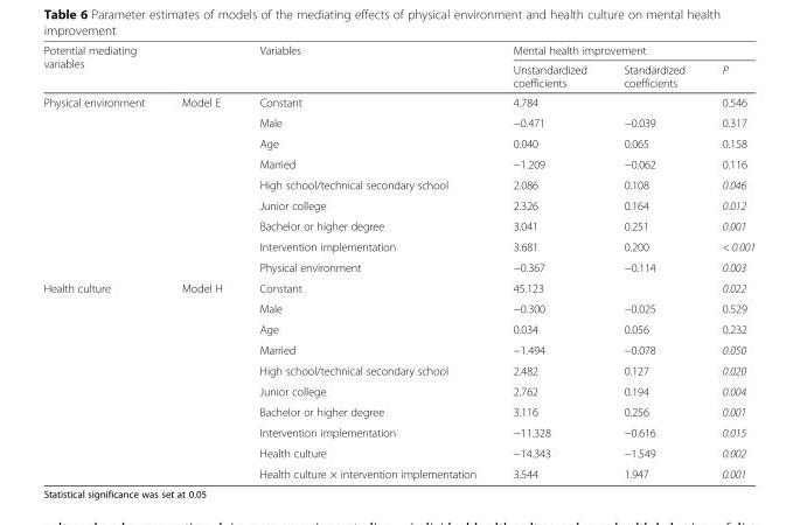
<table><thead><tr><td rowspan="2">Potential mediating variables</td><td rowspan="2"></td><td rowspan="2">Variables</td><td colspan="3">Mental health improvement</td></tr><tr><td>Unstandardized coefficients</td><td>Standardized coefficients</td><td>P</td></tr></thead><tbody><tr><td rowspan="9">Physical environment</td><td rowspan="9">Model E</td><td>Constant</td><td>4.784</td><td></td><td>0.546</td></tr><tr><td>Male</td><td>−0.471</td><td>−0.039</td><td>0.317</td></tr><tr><td>Age</td><td>0.040</td><td>0.065</td><td>0.158</td></tr><tr><td>Married</td><td>−1.209</td><td>−0.062</td><td>0.116</td></tr><tr><td>High school/technical secondary school</td><td>2.086</td><td>0.108</td><td>0.046</td></tr><tr><td>Junior college</td><td>2.326</td><td>0.164</td><td>0.012</td></tr><tr><td>Bachelor or higher degree</td><td>3.041</td><td>0.251</td><td>0.001</td></tr><tr><td>Intervention implementation</td><td>3.681</td><td>0.200</td><td>&lt; 0.001</td></tr><tr><td>Physical environment</td><td>−0.367</td><td>−0.114</td><td>0.003</td></tr><tr><td rowspan="10">Health culture</td><td rowspan="10">Model H</td><td>Constant</td><td>45.123</td><td></td><td>0.022</td></tr><tr><td>Male</td><td>−0.300</td><td>−0.025</td><td>0.529</td></tr><tr><td>Age</td><td>0.034</td><td>0.056</td><td>0.232</td></tr><tr><td>Married</td><td>−1.494</td><td>−0.078</td><td>0.050</td></tr><tr><td>High school/technical secondary school</td><td>2.482</td><td>0.127</td><td>0.020</td></tr><tr><td>Junior college</td><td>2.762</td><td>0.194</td><td>0.004</td></tr><tr><td>Bachelor or higher degree</td><td>3.116</td><td>0.256</td><td>0.001</td></tr><tr><td>Intervention implementation</td><td>−11.328</td><td>−0.616</td><td>0.015</td></tr><tr><td>Health culture</td><td>−14.343</td><td>−1.549</td><td>0.002</td></tr><tr><td>Health culture × intervention implementation</td><td>3.544</td><td>1.947</td><td>0.001</td></tr></tbody></table>